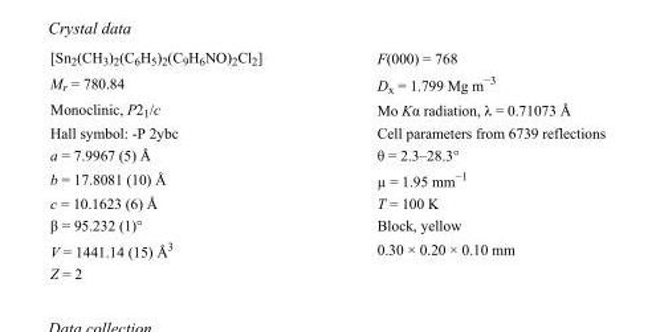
<table><tbody><tr><td>[Sn<sub>2</sub>(CH<sub>3</sub>)<sub>2</sub>(C<sub>6</sub>H<sub>5</sub>)<sub>2</sub>(C<sub>9</sub>H<sub>6</sub>NO)<sub>2</sub>Cl<sub>2</sub>]</td><td>F(000) = 768</td></tr><tr><td>M<sub>r</sub> = 780.84</td><td>D<sub>x</sub> = 1.799 Mg m<sup>−3</sup></td></tr><tr><td>Monoclinic, P2<sub>1</sub>/c</td><td>Mo Kα radiation, λ = 0.71073 Å</td></tr><tr><td>Hall symbol: -P 2ybc</td><td>Cell parameters from 6739 reflections</td></tr><tr><td>a = 7.9967 (5) Å</td><td>θ = 2.3–28.3°</td></tr><tr><td>b = 17.8081 (10) Å</td><td>µ = 1.95 mm<sup>−1</sup></td></tr><tr><td>c = 10.1623 (6) Å</td><td>T = 100 K</td></tr><tr><td>β = 95.232 (1)°</td><td>Block, yellow</td></tr><tr><td>V = 1441.14 (15) Å<sup>3</sup></td><td>0.30 × 0.20 × 0.10 mm</td></tr><tr><td>Z = 2</td><td></td></tr></tbody></table>